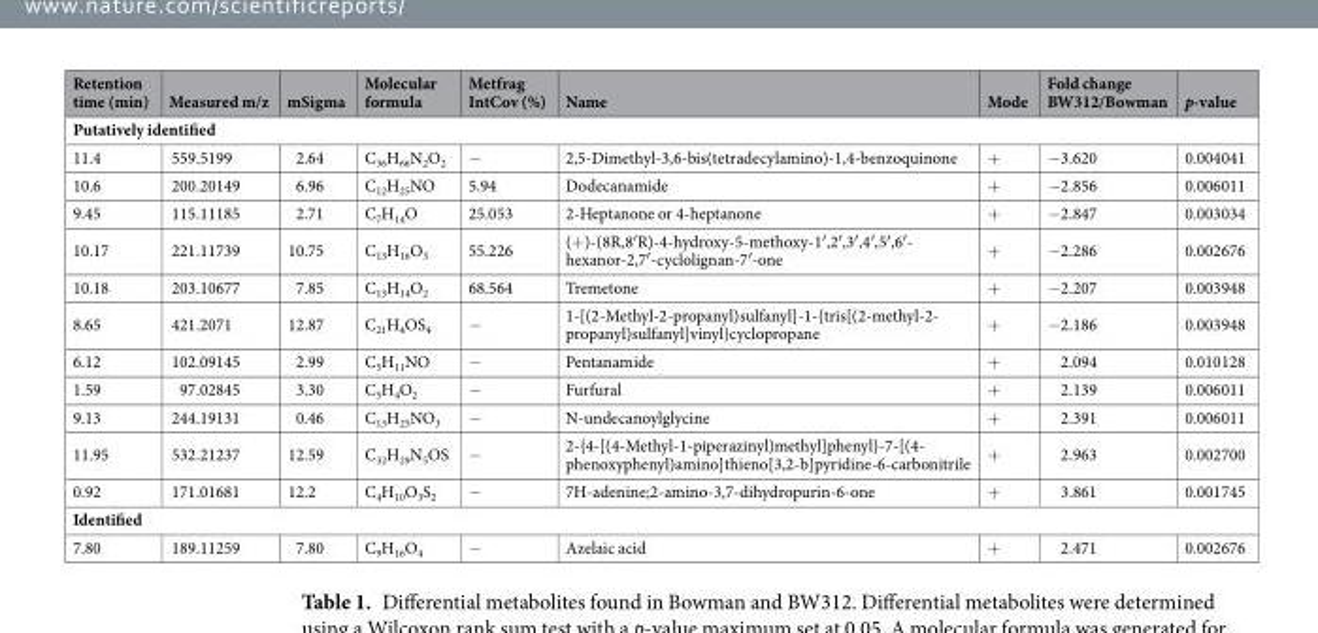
<table><thead><tr><td>Retention time (min)</td><td>Measured m/z</td><td>mSigma</td><td>Molecular formula</td><td>Metfrag IntCov (%)</td><td>Name</td><td>Mode</td><td>Fold change BW312/Bowman</td><td>p-value</td></tr></thead><tbody><tr><td colspan="9">Putatively identified</td></tr><tr><td>11.4</td><td>559.5199</td><td>2.64</td><td>C<sub>36</sub>H<sub>66</sub>N<sub>2</sub>O<sub>2</sub></td><td>−</td><td>2,5-Dimethyl-3,6-bis(tetradecylamino)-1,4-benzoquinone</td><td>+</td><td>−3.620</td><td>0.004041</td></tr><tr><td>10.6</td><td>200.20149</td><td>6.96</td><td>C<sub>12</sub>H<sub>25</sub>NO</td><td>5.94</td><td>Dodecanamide</td><td>+</td><td>−2.856</td><td>0.006011</td></tr><tr><td>9.45</td><td>115.11185</td><td>2.71</td><td>C<sub>7</sub>H<sub>14</sub>O</td><td>25.053</td><td>2-Heptanone or 4-heptanone</td><td>+</td><td>−2.847</td><td>0.003034</td></tr><tr><td>10.17</td><td>221.11739</td><td>10.75</td><td>C<sub>13</sub>H<sub>16</sub>O<sub>3</sub></td><td>55.226</td><td>(+)-(8R,8′R)-4-hydroxy-5-methoxy-1′,2′,3′,4′,5′,6′- hexanor-2,7′-cyclolignan-7′-one</td><td>+</td><td>−2.286</td><td>0.002676</td></tr><tr><td>10.18</td><td>203.10677</td><td>7.85</td><td>C<sub>13</sub>H<sub>14</sub>O<sub>2</sub></td><td>68.564</td><td>Tremetone</td><td>+</td><td>−2.207</td><td>0.003948</td></tr><tr><td>8.65</td><td>421.2071</td><td>12.87</td><td>C<sub>21</sub>H<sub>4</sub>OS<sub>4</sub></td><td>−</td><td>1-[(2-Methyl-2-propanyl)sulfanyl]-1-{tris[(2-methyl-2- propanyl)sulfanyl]vinyl}cyclopropane</td><td>+</td><td>−2.186</td><td>0.003948</td></tr><tr><td>6.12</td><td>102.09145</td><td>2.99</td><td>C<sub>5</sub>H<sub>11</sub>NO</td><td>−</td><td>Pentanamide</td><td>+</td><td>2.094</td><td>0.010128</td></tr><tr><td>1.59</td><td>97.02845</td><td>3.30</td><td>C<sub>5</sub>H<sub>4</sub>O<sub>2</sub></td><td>−</td><td>Furfural</td><td>+</td><td>2.139</td><td>0.006011</td></tr><tr><td>9.13</td><td>244.19131</td><td>0.46</td><td>C<sub>13</sub>H<sub>25</sub>NO<sub>3</sub></td><td>−</td><td>N-undecanoylglycine</td><td>+</td><td>2.391</td><td>0.006011</td></tr><tr><td>11.95</td><td>532.21237</td><td>12.59</td><td>C<sub>32</sub>H<sub>29</sub>N<sub>5</sub>OS</td><td>−</td><td>2-{4-[(4-Methyl-1-piperazinyl)methyl]phenyl}-7-[(4- phenoxyphenyl)amino]thieno[3,2-b]pyridine-6-carbonitrile</td><td>+</td><td>2.963</td><td>0.002700</td></tr><tr><td>0.92</td><td>171.01681</td><td>12.2</td><td>C<sub>4</sub>H<sub>10</sub>O<sub>3</sub>S<sub>2</sub></td><td>−</td><td>7H-adenine;2-amino-3,7-dihydropurin-6-one</td><td>+</td><td>3.861</td><td>0.001745</td></tr><tr><td colspan="9">Identified</td></tr><tr><td>7.80</td><td>189.11259</td><td>7.80</td><td>C<sub>9</sub>H<sub>16</sub>O<sub>4</sub></td><td>−</td><td>Azelaic acid</td><td>+</td><td>2.471</td><td>0.002676</td></tr></tbody></table>